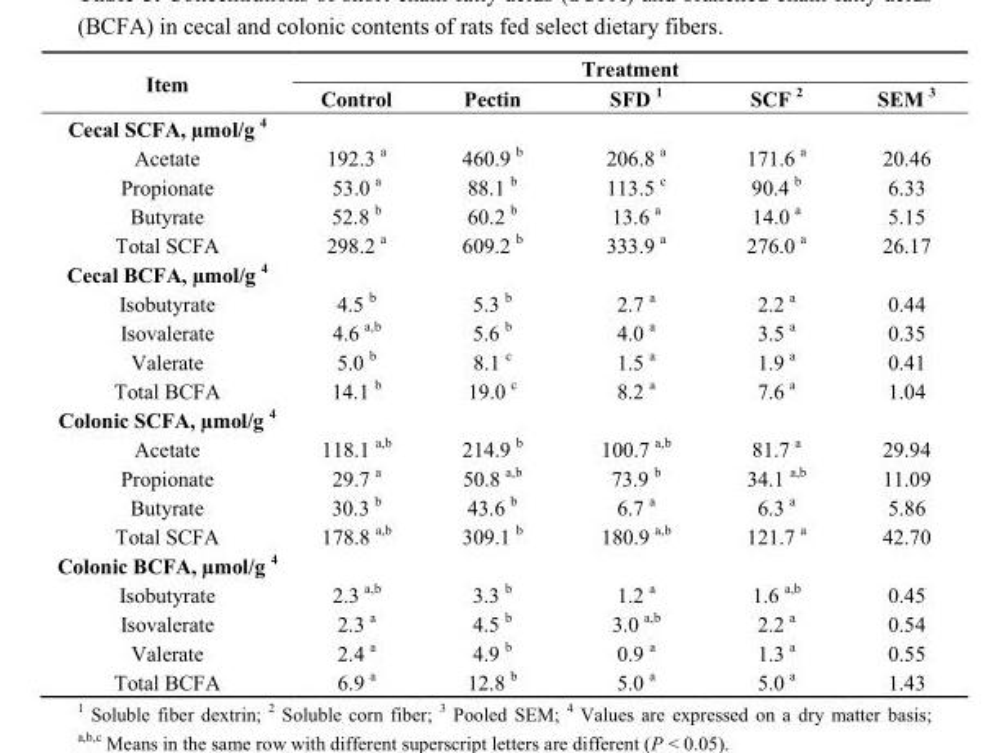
<table><thead><tr><td rowspan="2">Item</td><td colspan="5">Treatment</td></tr><tr><td>Control</td><td>Pectin</td><td>SFD <sup>1</sup></td><td>SCF <sup>2</sup></td><td>SEM <sup>3</sup></td></tr></thead><tbody><tr><td colspan="6">Cecal SCFA, µmol/g <sup>4</sup></td></tr><tr><td>Acetate</td><td>192.3 <sup>a</sup></td><td>460.9 <sup>b</sup></td><td>206.8 <sup>a</sup></td><td>171.6 <sup>a</sup></td><td>20.46</td></tr><tr><td>Propionate</td><td>53.0 <sup>a</sup></td><td>88.1 <sup>b</sup></td><td>113.5 <sup>c</sup></td><td>90.4 <sup>b</sup></td><td>6.33</td></tr><tr><td>Butyrate</td><td>52.8 <sup>b</sup></td><td>60.2 <sup>b</sup></td><td>13.6 <sup>a</sup></td><td>14.0 <sup>a</sup></td><td>5.15</td></tr><tr><td>Total SCFA</td><td>298.2 <sup>a</sup></td><td>609.2 <sup>b</sup></td><td>333.9 <sup>a</sup></td><td>276.0 <sup>a</sup></td><td>26.17</td></tr><tr><td colspan="6">Cecal BCFA, µmol/g <sup>4</sup></td></tr><tr><td>Isobutyrate</td><td>4.5 <sup>b</sup></td><td>5.3 <sup>b</sup></td><td>2.7 <sup>a</sup></td><td>2.2 <sup>a</sup></td><td>0.44</td></tr><tr><td>Isovalerate</td><td>4.6 <sup>a,b</sup></td><td>5.6 <sup>b</sup></td><td>4.0 <sup>a</sup></td><td>3.5 <sup>a</sup></td><td>0.35</td></tr><tr><td>Valerate</td><td>5.0 <sup>b</sup></td><td>8.1 <sup>c</sup></td><td>1.5 <sup>a</sup></td><td>1.9 <sup>a</sup></td><td>0.41</td></tr><tr><td>Total BCFA</td><td>14.1 <sup>b</sup></td><td>19.0 <sup>c</sup></td><td>8.2 <sup>a</sup></td><td>7.6 <sup>a</sup></td><td>1.04</td></tr><tr><td colspan="6">Colonic SCFA, µmol/g <sup>4</sup></td></tr><tr><td>Acetate</td><td>118.1 <sup>a,b</sup></td><td>214.9 <sup>b</sup></td><td>100.7 <sup>a,b</sup></td><td>81.7 <sup>a</sup></td><td>29.94</td></tr><tr><td>Propionate</td><td>29.7 <sup>a</sup></td><td>50.8 <sup>a,b</sup></td><td>73.9 <sup>b</sup></td><td>34.1 <sup>a,b</sup></td><td>11.09</td></tr><tr><td>Butyrate</td><td>30.3 <sup>b</sup></td><td>43.6 <sup>b</sup></td><td>6.7 <sup>a</sup></td><td>6.3 <sup>a</sup></td><td>5.86</td></tr><tr><td>Total SCFA</td><td>178.8 <sup>a,b</sup></td><td>309.1 <sup>b</sup></td><td>180.9 <sup>a,b</sup></td><td>121.7 <sup>a</sup></td><td>42.70</td></tr><tr><td colspan="6">Colonic BCFA, µmol/g <sup>4</sup></td></tr><tr><td>Isobutyrate</td><td>2.3 <sup>a,b</sup></td><td>3.3 <sup>b</sup></td><td>1.2 <sup>a</sup></td><td>1.6 <sup>a,b</sup></td><td>0.45</td></tr><tr><td>Isovalerate</td><td>2.3 <sup>a</sup></td><td>4.5 <sup>b</sup></td><td>3.0 <sup>a,b</sup></td><td>2.2 <sup>a</sup></td><td>0.54</td></tr><tr><td>Valerate</td><td>2.4 <sup>a</sup></td><td>4.9 <sup>b</sup></td><td>0.9 <sup>a</sup></td><td>1.3 <sup>a</sup></td><td>0.55</td></tr><tr><td>Total BCFA</td><td>6.9 <sup>a</sup></td><td>12.8 <sup>b</sup></td><td>5.0 <sup>a</sup></td><td>5.0 <sup>a</sup></td><td>1.43</td></tr></tbody></table>